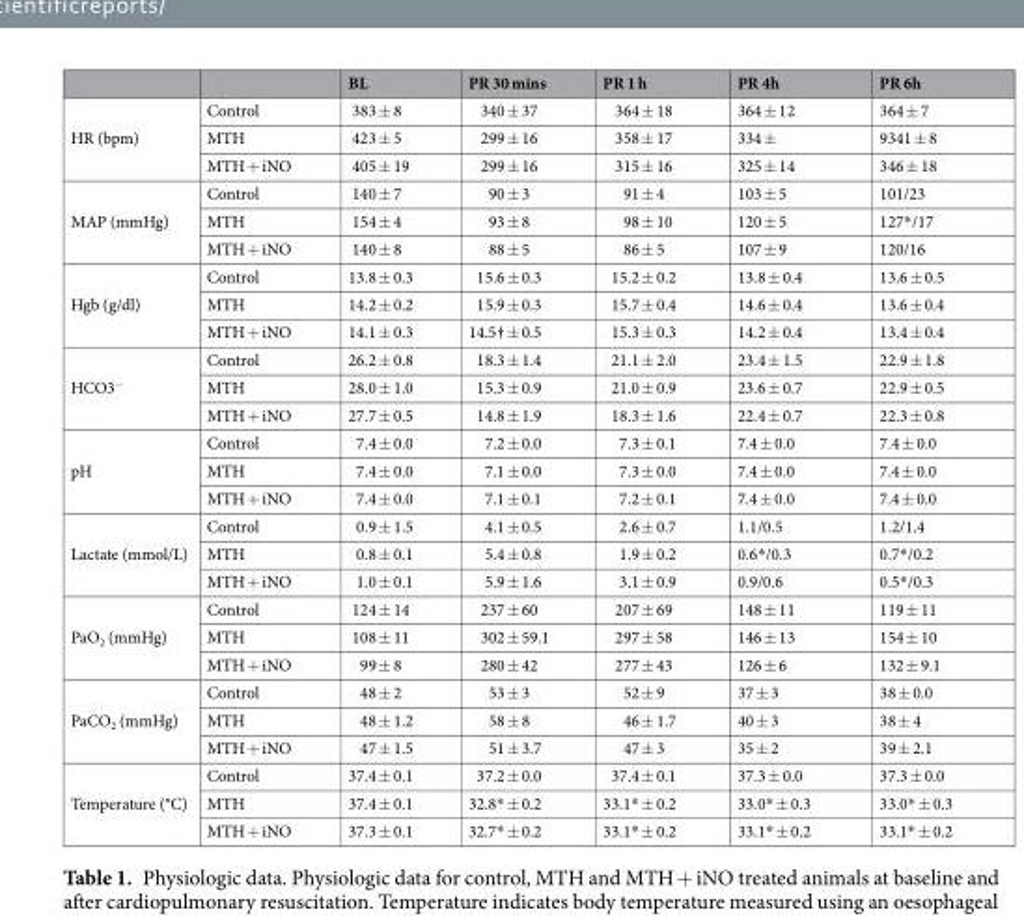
<table><thead><tr><td></td><td></td><td>BL</td><td>PR 30 mins</td><td>PR 1 h</td><td>PR 4h</td><td>PR 6h</td></tr></thead><tbody><tr><td rowspan="3">HR (bpm)</td><td>Control</td><td>383 ± 8</td><td>340 ± 37</td><td>364 ± 18</td><td>364 ± 12</td><td>364 ± 7</td></tr><tr><td>MTH</td><td>423 ± 5</td><td>299 ± 16</td><td>358 ± 17</td><td>334 ±</td><td>9341 ± 8</td></tr><tr><td>MTH + iNO</td><td>405 ± 19</td><td>299 ± 16</td><td>315 ± 16</td><td>325 ± 14</td><td>346 ± 18</td></tr><tr><td rowspan="3">MAP (mmHg)</td><td>Control</td><td>140 ± 7</td><td>90 ± 3</td><td>91 ± 4</td><td>103 ± 5</td><td>101/23</td></tr><tr><td>MTH</td><td>154 ± 4</td><td>93 ± 8</td><td>98 ± 10</td><td>120 ± 5</td><td>127*/17</td></tr><tr><td>MTH + iNO</td><td>140 ± 8</td><td>88 ± 5</td><td>86 ± 5</td><td>107 ± 9</td><td>120/16</td></tr><tr><td rowspan="3">Hgb (g/dl)</td><td>Control</td><td>13.8 ± 0.3</td><td>15.6 ± 0.3</td><td>15.2 ± 0.2</td><td>13.8 ± 0.4</td><td>13.6 ± 0.5</td></tr><tr><td>MTH</td><td>14.2 ± 0.2</td><td>15.9 ± 0.3</td><td>15.7 ± 0.4</td><td>14.6 ± 0.4</td><td>13.6 ± 0.4</td></tr><tr><td>MTH + iNO</td><td>14.1 ± 0.3</td><td>14.5† ± 0.5</td><td>15.3 ± 0.3</td><td>14.2 ± 0.4</td><td>13.4 ± 0.4</td></tr><tr><td rowspan="3">HCO3<sup>−</sup></td><td>Control</td><td>26.2 ± 0.8</td><td>18.3 ± 1.4</td><td>21.1 ± 2.0</td><td>23.4 ± 1.5</td><td>22.9 ± 1.8</td></tr><tr><td>MTH</td><td>28.0 ± 1.0</td><td>15.3 ± 0.9</td><td>21.0 ± 0.9</td><td>23.6 ± 0.7</td><td>22.9 ± 0.5</td></tr><tr><td>MTH + iNO</td><td>27.7 ± 0.5</td><td>14.8 ± 1.9</td><td>18.3 ± 1.6</td><td>22.4 ± 0.7</td><td>22.3 ± 0.8</td></tr><tr><td rowspan="3">pH</td><td>Control</td><td>7.4 ± 0.0</td><td>7.2 ± 0.0</td><td>7.3 ± 0.1</td><td>7.4 ± 0.0</td><td>7.4 ± 0.0</td></tr><tr><td>MTH</td><td>7.4 ± 0.0</td><td>7.1 ± 0.0</td><td>7.3 ± 0.0</td><td>7.4 ± 0.0</td><td>7.4 ± 0.0</td></tr><tr><td>MTH + iNO</td><td>7.4 ± 0.0</td><td>7.1 ± 0.1</td><td>7.2 ± 0.1</td><td>7.4 ± 0.0</td><td>7.4 ± 0.0</td></tr><tr><td rowspan="3">Lactate (mmol/L)</td><td>Control</td><td>0.9 ± 1.5</td><td>4.1 ± 0.5</td><td>2.6 ± 0.7</td><td>1.1/0.5</td><td>1.2/1.4</td></tr><tr><td>MTH</td><td>0.8 ± 0.1</td><td>5.4 ± 0.8</td><td>1.9 ± 0.2</td><td>0.6*/0.3</td><td>0.7*/0.2</td></tr><tr><td>MTH + iNO</td><td>1.0 ± 0.1</td><td>5.9 ± 1.6</td><td>3.1 ± 0.9</td><td>0.9/0.6</td><td>0.5*/0.3</td></tr><tr><td rowspan="3">PaO<sub>2</sub> (mmHg)</td><td>Control</td><td>124 ± 14</td><td>237 ± 60</td><td>207 ± 69</td><td>148 ± 11</td><td>119 ± 11</td></tr><tr><td>MTH</td><td>108 ± 11</td><td>302 ± 59.1</td><td>297 ± 58</td><td>146 ± 13</td><td>154 ± 10</td></tr><tr><td>MTH + iNO</td><td>99 ± 8</td><td>280 ± 42</td><td>277 ± 43</td><td>126 ± 6</td><td>132 ± 9.1</td></tr><tr><td rowspan="3">PaCO<sub>2</sub> (mmHg)</td><td>Control</td><td>48 ± 2</td><td>53 ± 3</td><td>52 ± 9</td><td>37 ± 3</td><td>38 ± 0.0</td></tr><tr><td>MTH</td><td>48 ± 1.2</td><td>58 ± 8</td><td>46 ± 1.7</td><td>40 ± 3</td><td>38 ± 4</td></tr><tr><td>MTH + iNO</td><td>47 ± 1.5</td><td>51 ± 3.7</td><td>47 ± 3</td><td>35 ± 2</td><td>39 ± 2.1</td></tr><tr><td rowspan="3">Temperature (°C)</td><td>Control</td><td>37.4 ± 0.1</td><td>37.2 ± 0.0</td><td>37.4 ± 0.1</td><td>37.3 ± 0.0</td><td>37.3 ± 0.0</td></tr><tr><td>MTH</td><td>37.4 ± 0.1</td><td>32.8* ± 0.2</td><td>33.1* ± 0.2</td><td>33.0* ± 0.3</td><td>33.0* ± 0.3</td></tr><tr><td>MTH + iNO</td><td>37.3 ± 0.1</td><td>32.7* ± 0.2</td><td>33.1* ± 0.2</td><td>33.1* ± 0.2</td><td>33.1* ± 0.2</td></tr></tbody></table>